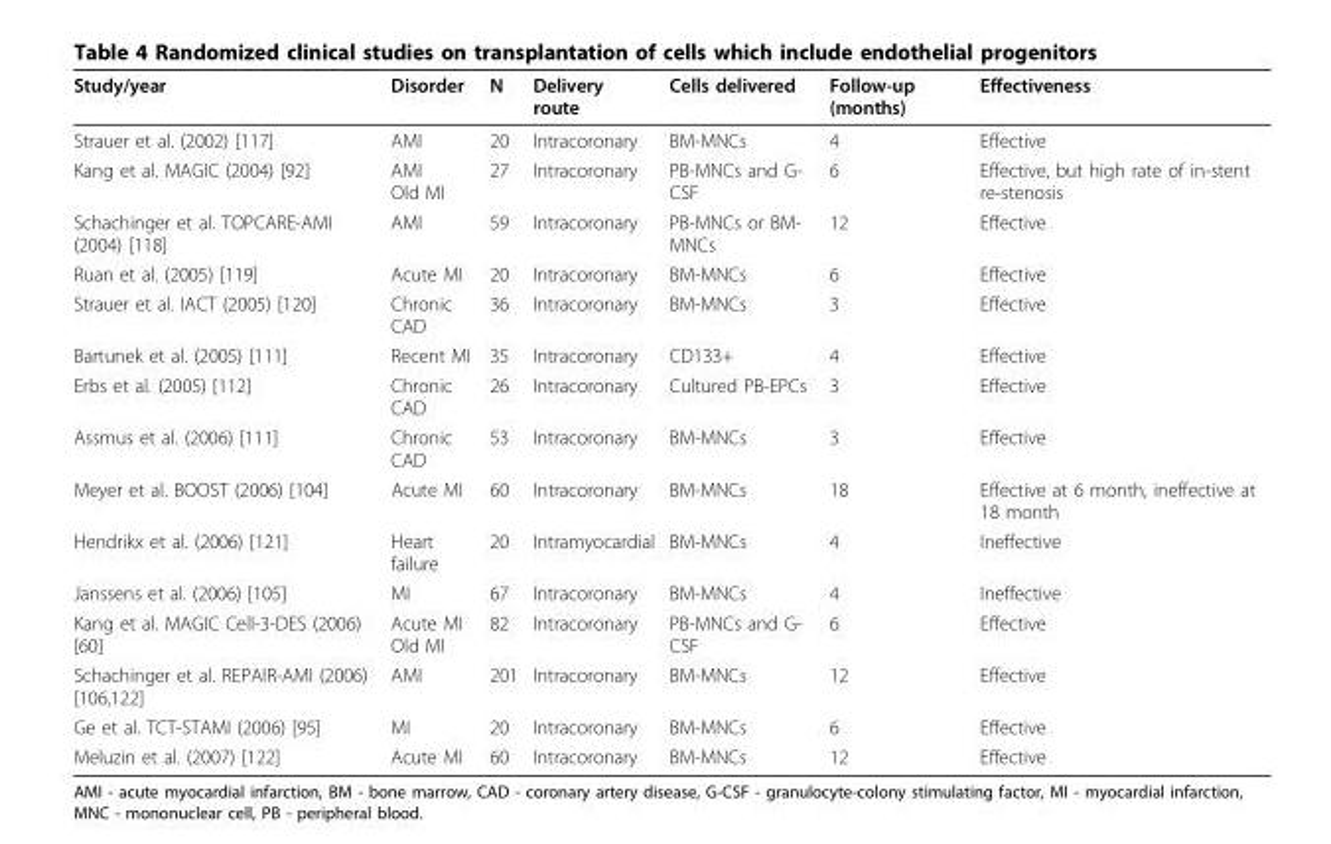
<table><thead><tr><td>Study/year</td><td>Disorder</td><td>N</td><td>Delivery route</td><td>Cells delivered</td><td>Follow-up (months)</td><td>Effectiveness</td></tr></thead><tbody><tr><td>Strauer et al. (2002) [117]</td><td>AMI</td><td>20</td><td>Intracoronary</td><td>BM-MNCs</td><td>4</td><td>Effective</td></tr><tr><td>Kang et al. MAGIC (2004) [92]</td><td>AMI Old MI</td><td>27</td><td>Intracoronary</td><td>PB-MNCs and G- CSF</td><td>6</td><td>Effective, but high rate of in-stent re-stenosis</td></tr><tr><td>Schachinger et al. TOPCARE-AMI (2004) [118]</td><td>AMI</td><td>59</td><td>Intracoronary</td><td>PB-MNCs or BM- MNCs</td><td>12</td><td>Effective</td></tr><tr><td>Ruan et al. (2005) [119]</td><td>Acute MI</td><td>20</td><td>Intracoronary</td><td>BM-MNCs</td><td>6</td><td>Effective</td></tr><tr><td>Strauer et al. IACT (2005) [120]</td><td>Chronic CAD</td><td>36</td><td>Intracoronary</td><td>BM-MNCs</td><td>3</td><td>Effective</td></tr><tr><td>Bartunek et al. (2005) [111]</td><td>Recent MI</td><td>35</td><td>Intracoronary</td><td>CD133+</td><td>4</td><td>Effective</td></tr><tr><td>Erbs et al. (2005) [112]</td><td>Chronic CAD</td><td>26</td><td>Intracoronary</td><td>Cultured PB-EPCs</td><td>3</td><td>Effective</td></tr><tr><td>Assmus et al. (2006) [111]</td><td>Chronic CAD</td><td>53</td><td>Intracoronary</td><td>BM-MNCs</td><td>3</td><td>Effective</td></tr><tr><td>Meyer et al. BOOST (2006) [104]</td><td>Acute MI</td><td>60</td><td>Intracoronary</td><td>BM-MNCs</td><td>18</td><td>Effective at 6 month, ineffective at 18 month</td></tr><tr><td>Hendrikx et al. (2006) [121]</td><td>Heart failure</td><td>20</td><td>Intramyocardial</td><td>BM-MNCs</td><td>4</td><td>Ineffective</td></tr><tr><td>Janssens et al. (2006) [105]</td><td>MI</td><td>67</td><td>Intracoronary</td><td>BM-MNCs</td><td>4</td><td>Ineffective</td></tr><tr><td>Kang et al. MAGIC Cell-3-DES (2006) [60]</td><td>Acute MI Old MI</td><td>82</td><td>Intracoronary</td><td>PB-MNCs and G- CSF</td><td>6</td><td>Effective</td></tr><tr><td>Schachinger et al. REPAIR-AMI (2006) [106,122]</td><td>AMI</td><td>201</td><td>Intracoronary</td><td>BM-MNCs</td><td>12</td><td>Effective</td></tr><tr><td>Ge et al. TCT-STAMI (2006) [95]</td><td>MI</td><td>20</td><td>Intracoronary</td><td>BM-MNCs</td><td>6</td><td>Effective</td></tr><tr><td>Meluzin et al. (2007) [122]</td><td>Acute MI</td><td>60</td><td>Intracoronary</td><td>BM-MNCs</td><td>12</td><td>Effective</td></tr></tbody></table>